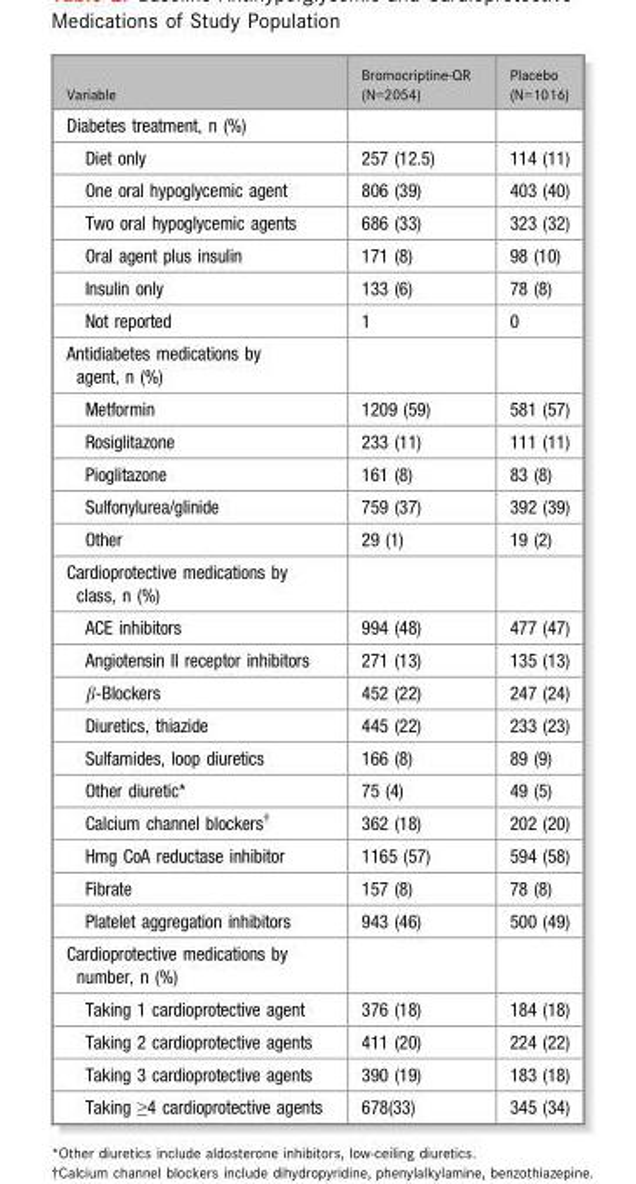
<table><thead><tr><td>Variable</td><td>Bromocriptine-QR (N=2054)</td><td>Placebo (N=1016)</td></tr></thead><tbody><tr><td colspan="3">Diabetes treatment, n (%)</td></tr><tr><td>Diet only</td><td>257 (12.5)</td><td>114 (11)</td></tr><tr><td>One oral hypoglycemic agent</td><td>806 (39)</td><td>403 (40)</td></tr><tr><td>Two oral hypoglycemic agents</td><td>686 (33)</td><td>323 (32)</td></tr><tr><td>Oral agent plus insulin</td><td>171 (8)</td><td>98 (10)</td></tr><tr><td>Insulin only</td><td>133 (6)</td><td>78 (8)</td></tr><tr><td>Not reported</td><td>1</td><td>0</td></tr><tr><td colspan="3">Antidiabetes medications by agent, n (%)</td></tr><tr><td>Metformin</td><td>1209 (59)</td><td>581 (57)</td></tr><tr><td>Rosiglitazone</td><td>233 (11)</td><td>111 (11)</td></tr><tr><td>Pioglitazone</td><td>161 (8)</td><td>83 (8)</td></tr><tr><td>Sulfonylurea/glinide</td><td>759 (37)</td><td>392 (39)</td></tr><tr><td>Other</td><td>29 (1)</td><td>19 (2)</td></tr><tr><td colspan="3">Cardioprotective medications by class, n (%)</td></tr><tr><td>ACE inhibitors</td><td>994 (48)</td><td>477 (47)</td></tr><tr><td>Angiotensin II receptor inhibitors</td><td>271 (13)</td><td>135 (13)</td></tr><tr><td>β-Blockers</td><td>452 (22)</td><td>247 (24)</td></tr><tr><td>Diuretics, thiazide</td><td>445 (22)</td><td>233 (23)</td></tr><tr><td>Sulfamides, loop diuretics</td><td>166 (8)</td><td>89 (9)</td></tr><tr><td>Other diuretic*</td><td>75 (4)</td><td>49 (5)</td></tr><tr><td>Calcium channel blockers†</td><td>362 (18)</td><td>202 (20)</td></tr><tr><td>Hmg CoA reductase inhibitor</td><td>1165 (57)</td><td>594 (58)</td></tr><tr><td>Fibrate</td><td>157 (8)</td><td>78 (8)</td></tr><tr><td>Platelet aggregation inhibitors</td><td>943 (46)</td><td>500 (49)</td></tr><tr><td colspan="3">Cardioprotective medications by number, n (%)</td></tr><tr><td>Taking 1 cardioprotective agent</td><td>376 (18)</td><td>184 (18)</td></tr><tr><td>Taking 2 cardioprotective agents</td><td>411 (20)</td><td>224 (22)</td></tr><tr><td>Taking 3 cardioprotective agents</td><td>390 (19)</td><td>183 (18)</td></tr><tr><td>Taking ≥4 cardioprotective agents</td><td>678(33)</td><td>345 (34)</td></tr></tbody></table>